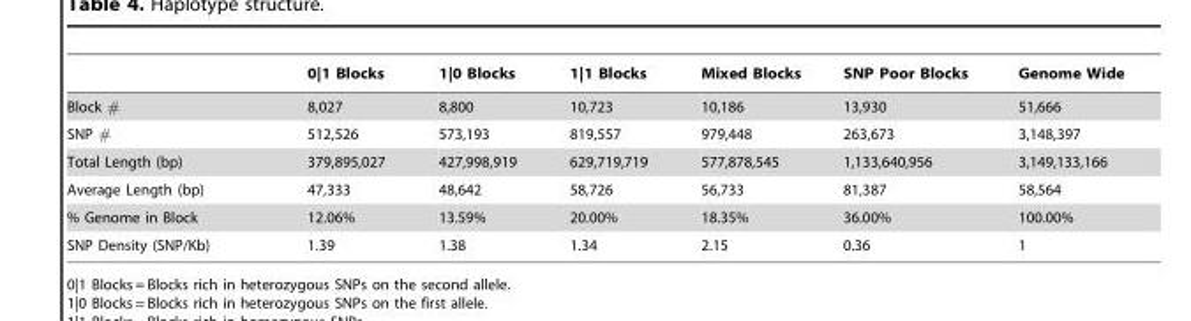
<table><thead><tr><td></td><td>0|1 Blocks</td><td>1|0 Blocks</td><td>1|1 Blocks</td><td>Mixed Blocks</td><td>SNP Poor Blocks</td><td>Genome Wide</td></tr></thead><tbody><tr><td>Block #</td><td>8,027</td><td>8,800</td><td>10,723</td><td>10,186</td><td>13,930</td><td>51,666</td></tr><tr><td>SNP #</td><td>512,526</td><td>573,193</td><td>819,557</td><td>979,448</td><td>263,673</td><td>3,148,397</td></tr><tr><td>Total Length (bp)</td><td>379,895,027</td><td>427,998,919</td><td>629,719,719</td><td>577,878,545</td><td>1,133,640,956</td><td>3,149,133,166</td></tr><tr><td>Average Length (bp)</td><td>47,333</td><td>48,642</td><td>58,726</td><td>56,733</td><td>81,387</td><td>58,564</td></tr><tr><td>% Genome in Block</td><td>12.06%</td><td>13.59%</td><td>20.00%</td><td>18.35%</td><td>36.00%</td><td>100.00%</td></tr><tr><td>SNP Density (SNP/Kb)</td><td>1.39</td><td>1.38</td><td>1.34</td><td>2.15</td><td>0.36</td><td>1</td></tr></tbody></table>